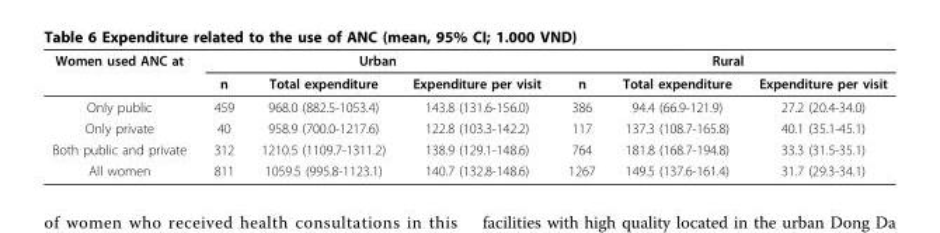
<table><thead><tr><td rowspan="2">Women used ANC at</td><td colspan="3">Urban</td><td colspan="3">Rural</td></tr><tr><td>n</td><td>Total expenditure</td><td>Expenditure per visit</td><td>n</td><td>Total expenditure</td><td>Expenditure per visit</td></tr></thead><tbody><tr><td>Only public</td><td>459</td><td>968.0 (882.5-1053.4)</td><td>143.8 (131.6-156.0)</td><td>386</td><td>94.4 (66.9-121.9)</td><td>27.2 (20.4-34.0)</td></tr><tr><td>Only private</td><td>40</td><td>958.9 (700.0-1217.6)</td><td>122.8 (103.3-142.2)</td><td>117</td><td>137.3 (108.7-165.8)</td><td>40.1 (35.1-45.1)</td></tr><tr><td>Both public and private</td><td>312</td><td>1210.5 (1109.7-1311.2)</td><td>138.9 (129.1-148.6)</td><td>764</td><td>181.8 (168.7-194.8)</td><td>33.3 (31.5-35.1)</td></tr><tr><td>All women</td><td>811</td><td>1059.5 (995.8-1123.1)</td><td>140.7 (132.8-148.6)</td><td>1267</td><td>149.5 (137.6-161.4)</td><td>31.7 (29.3-34.1)</td></tr></tbody></table>